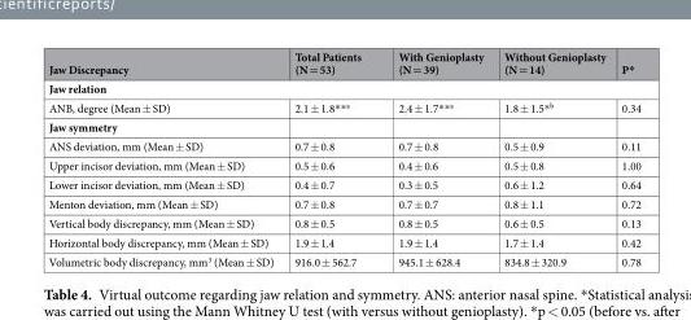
<table><thead><tr><td>Jaw Discrepancy</td><td>Total Patients (N = 53)</td><td>With Genioplasty (N = 39)</td><td>Without Genioplasty (N = 14)</td><td>P*</td></tr></thead><tbody><tr><td colspan="5">Jaw relation</td></tr><tr><td>ANB, degree (Mean ± SD)</td><td>2.1 ± 1.8**<sup>a</sup></td><td>2.4 ± 1.7**<sup>a</sup></td><td>1.8 ± 1.5*<sup>b</sup></td><td>0.34</td></tr><tr><td colspan="5">Jaw symmetry</td></tr><tr><td>ANS deviation, mm (Mean ± SD)</td><td>0.7 ± 0.8</td><td>0.7 ± 0.8</td><td>0.5 ± 0.9</td><td>0.11</td></tr><tr><td>Upper incisor deviation, mm (Mean ± SD)</td><td>0.5 ± 0.6</td><td>0.4 ± 0.6</td><td>0.5 ± 0.8</td><td>1.00</td></tr><tr><td>Lower incisor deviation, mm (Mean ± SD)</td><td>0.4 ± 0.7</td><td>0.3 ± 0.5</td><td>0.6 ± 1.2</td><td>0.64</td></tr><tr><td>Menton deviation, mm (Mean ± SD)</td><td>0.7 ± 0.8</td><td>0.7 ± 0.7</td><td>0.8 ± 1.1</td><td>0.72</td></tr><tr><td>Vertical body discrepancy, mm (Mean ± SD)</td><td>0.8 ± 0.5</td><td>0.8 ± 0.5</td><td>0.6 ± 0.5</td><td>0.13</td></tr><tr><td>Horizontal body discrepancy, mm (Mean ± SD)</td><td>1.9 ± 1.4</td><td>1.9 ± 1.4</td><td>1.7 ± 1.4</td><td>0.42</td></tr><tr><td>Volumetric body discrepancy, mm<sup>3</sup> (Mean ± SD)</td><td>916.0 ± 562.7</td><td>945.1 ± 628.4</td><td>834.8 ± 320.9</td><td>0.78</td></tr></tbody></table>